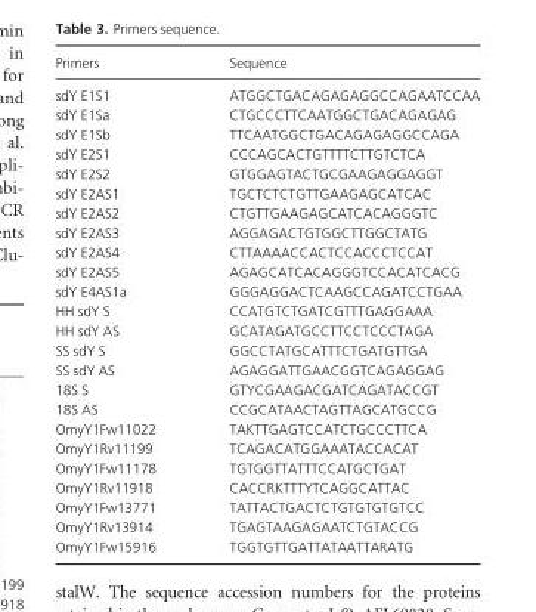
<table><thead><tr><td>Primers</td><td>Sequence</td></tr></thead><tbody><tr><td>sdY E1S1</td><td>ATGGCTGACAGAGAGGCCAGAATCCAA</td></tr><tr><td>sdY E1Sa</td><td>CTGCCCTTCAATGGCTGACAGAGAG</td></tr><tr><td>sdY E1Sb</td><td>TTCAATGGCTGACAGAGAGGCCAGA</td></tr><tr><td>sdY E2S1</td><td>CCCAGCACTGTTTTCTTGTCTCA</td></tr><tr><td>sdY E2S2</td><td>GTGGAGTACTGCGAAGAGGAGGT</td></tr><tr><td>sdY E2AS1</td><td>TGCTCTCTGTTGAAGAGCATCAC</td></tr><tr><td>sdY E2AS2</td><td>CTGTTGAAGAGCATCACAGGGTC</td></tr><tr><td>sdY E2AS3</td><td>AGGAGACTGTGGCTTGGCTATG</td></tr><tr><td>sdY E2AS4</td><td>CTTAAAACCACTCCACCCTCCAT</td></tr><tr><td>sdY E2AS5</td><td>AGAGCATCACAGGGTCCACATCACG</td></tr><tr><td>sdY E4AS1a</td><td>GGGAGGACTCAAGCCAGATCCTGAA</td></tr><tr><td>HH sdY S</td><td>CCATGTCTGATCGTTTGAGGAAA</td></tr><tr><td>HH sdY AS</td><td>GCATAGATGCCTTCCTCCCTAGA</td></tr><tr><td>SS sdY S</td><td>GGCCTATGCATTTCTGATGTTGA</td></tr><tr><td>SS sdY AS</td><td>AGAGGATTGAACGGTCAGAGGAG</td></tr><tr><td>18S S</td><td>GTYCGAAGACGATCAGATACCGT</td></tr><tr><td>18S AS</td><td>CCGCATAACTAGTTAGCATGCCG</td></tr><tr><td>OmyY1Fw11022</td><td>TAKTTGAGTCCATCTGCCCTTCA</td></tr><tr><td>OmyY1Rv11199</td><td>TCAGACATGGAAATACCACAT</td></tr><tr><td>OmyY1Fw11178</td><td>TGTGGTTATTTCCATGCTGAT</td></tr><tr><td>OmyY1Rv11918</td><td>CACCRKTTTYTCAGGCATTAC</td></tr><tr><td>OmyY1Fw13771</td><td>TATTACTGACTCTGTGTGTGTCC</td></tr><tr><td>OmyY1Rv13914</td><td>TGAGTAAGAGAATCTGTACCG</td></tr><tr><td>OmyY1Fw15916</td><td>TGGTGTTGATTATAATTARATG</td></tr></tbody></table>